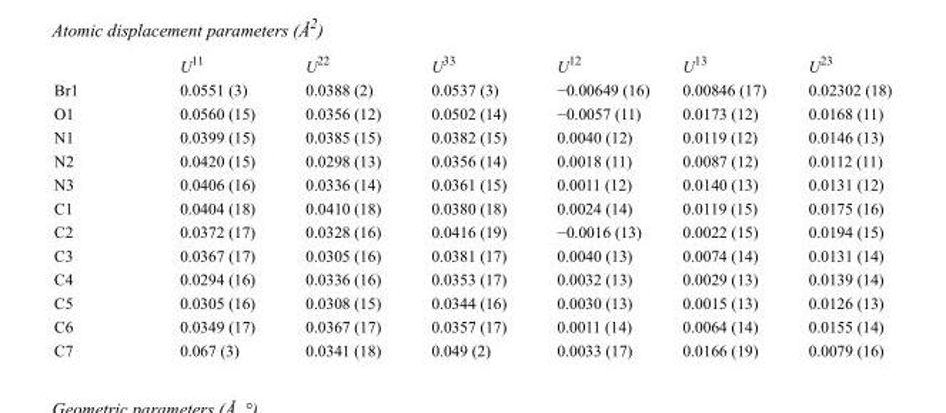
<table><thead><tr><td></td><td>U<sup>11</sup></td><td>U<sup>22</sup></td><td>U<sup>33</sup></td><td>U<sup>12</sup></td><td>U<sup>13</sup></td><td>U<sup>23</sup></td></tr></thead><tbody><tr><td>Br1</td><td>0.0551 (3)</td><td>0.0388 (2)</td><td>0.0537 (3)</td><td>−0.00649 (16)</td><td>0.00846 (17)</td><td>0.02302 (18)</td></tr><tr><td>O1</td><td>0.0560 (15)</td><td>0.0356 (12)</td><td>0.0502 (14)</td><td>−0.0057 (11)</td><td>0.0173 (12)</td><td>0.0168 (11)</td></tr><tr><td>N1</td><td>0.0399 (15)</td><td>0.0385 (15)</td><td>0.0382 (15)</td><td>0.0040 (12)</td><td>0.0119 (12)</td><td>0.0146 (13)</td></tr><tr><td>N2</td><td>0.0420 (15)</td><td>0.0298 (13)</td><td>0.0356 (14)</td><td>0.0018 (11)</td><td>0.0087 (12)</td><td>0.0112 (11)</td></tr><tr><td>N3</td><td>0.0406 (16)</td><td>0.0336 (14)</td><td>0.0361 (15)</td><td>0.0011 (12)</td><td>0.0140 (13)</td><td>0.0131 (12)</td></tr><tr><td>C1</td><td>0.0404 (18)</td><td>0.0410 (18)</td><td>0.0380 (18)</td><td>0.0024 (14)</td><td>0.0119 (15)</td><td>0.0175 (16)</td></tr><tr><td>C2</td><td>0.0372 (17)</td><td>0.0328 (16)</td><td>0.0416 (19)</td><td>−0.0016 (13)</td><td>0.0022 (15)</td><td>0.0194 (15)</td></tr><tr><td>C3</td><td>0.0367 (17)</td><td>0.0305 (16)</td><td>0.0381 (17)</td><td>0.0040 (13)</td><td>0.0074 (14)</td><td>0.0131 (14)</td></tr><tr><td>C4</td><td>0.0294 (16)</td><td>0.0336 (16)</td><td>0.0353 (17)</td><td>0.0032 (13)</td><td>0.0029 (13)</td><td>0.0139 (14)</td></tr><tr><td>C5</td><td>0.0305 (16)</td><td>0.0308 (15)</td><td>0.0344 (16)</td><td>0.0030 (13)</td><td>0.0015 (13)</td><td>0.0126 (13)</td></tr><tr><td>C6</td><td>0.0349 (17)</td><td>0.0367 (17)</td><td>0.0357 (17)</td><td>0.0011 (14)</td><td>0.0064 (14)</td><td>0.0155 (14)</td></tr><tr><td>C7</td><td>0.067 (3)</td><td>0.0341 (18)</td><td>0.049 (2)</td><td>0.0033 (17)</td><td>0.0166 (19)</td><td>0.0079 (16)</td></tr></tbody></table>